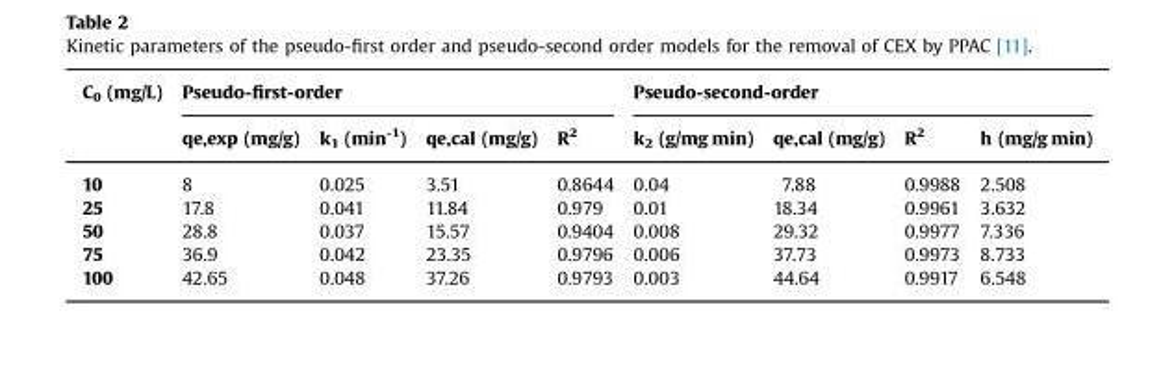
<table><thead><tr><td rowspan="2">C<sub>0</sub> (mg/L)</td><td colspan="4">Pseudo-first-order</td><td colspan="4">Pseudo-second-order</td></tr><tr><td>qe,exp (mg/g)</td><td>k<sub>1</sub> (min<sup>-1</sup>)</td><td>qe,cal (mg/g)</td><td>R<sup>2</sup></td><td>k<sub>2</sub> (g/mg min)</td><td>qe,cal (mg/g)</td><td>R<sup>2</sup></td><td>h (mg/g min)</td></tr></thead><tbody><tr><td>10</td><td>8</td><td>0.025</td><td>3.51</td><td>0.8644</td><td>0.04</td><td>7.88</td><td>0.9988</td><td>2.508</td></tr><tr><td>25</td><td>17.8</td><td>0.041</td><td>11.84</td><td>0.979</td><td>0.01</td><td>18.34</td><td>0.9961</td><td>3.632</td></tr><tr><td>50</td><td>28.8</td><td>0.037</td><td>15.57</td><td>0.9404</td><td>0.008</td><td>29.32</td><td>0.9977</td><td>7.336</td></tr><tr><td>75</td><td>36.9</td><td>0.042</td><td>23.35</td><td>0.9796</td><td>0.006</td><td>37.73</td><td>0.9973</td><td>8.733</td></tr><tr><td>100</td><td>42.65</td><td>0.048</td><td>37.26</td><td>0.9793</td><td>0.003</td><td>44.64</td><td>0.9917</td><td>6.548</td></tr></tbody></table>